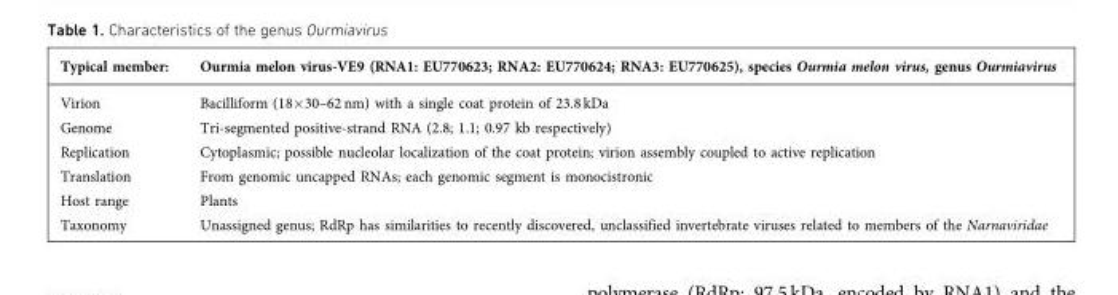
<table><thead><tr><td>Typical member:</td><td>Ourmia melon virus-VE9 (RNA1: EU770623; RNA2: EU770624; RNA3: EU770625), species Ourmia melon virus, genus Ourmiavirus</td></tr></thead><tbody><tr><td>Virion</td><td>Bacilliform (18×30–62 nm) with a single coat protein of 23.8 kDa</td></tr><tr><td>Genome</td><td>Tri-segmented positive-strand RNA (2.8; 1.1; 0.97 kb respectively)</td></tr><tr><td>Replication</td><td>Cytoplasmic; possible nucleolar localization of the coat protein; virion assembly coupled to active replication</td></tr><tr><td>Translation</td><td>From genomic uncapped RNAs; each genomic segment is monocistronic</td></tr><tr><td>Host range</td><td>Plants</td></tr><tr><td>Taxonomy</td><td>Unassigned genus; RdRp has similarities to recently discovered, unclassified invertebrate viruses related to members of the Narnaviridae</td></tr></tbody></table>